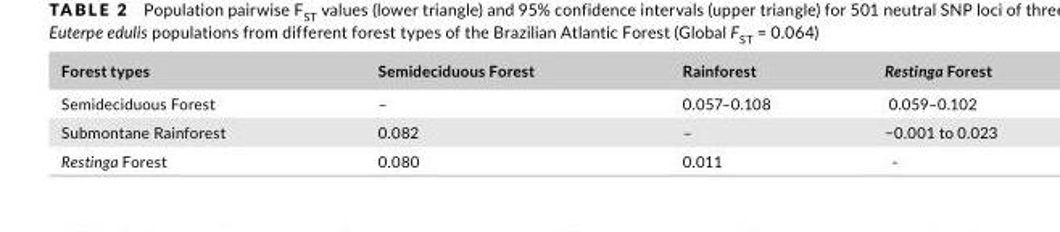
<table><thead><tr><td>Forest types</td><td>Semideciduous Forest</td><td>Rainforest</td><td>Restinga Forest</td></tr></thead><tbody><tr><td>Semideciduous Forest</td><td>–</td><td>0.057–0.108</td><td>0.059–0.102</td></tr><tr><td>Submontane Rainforest</td><td>0.082</td><td>–</td><td>−0.001 to 0.023</td></tr><tr><td>Restinga Forest</td><td>0.080</td><td>0.011</td><td>-</td></tr></tbody></table>